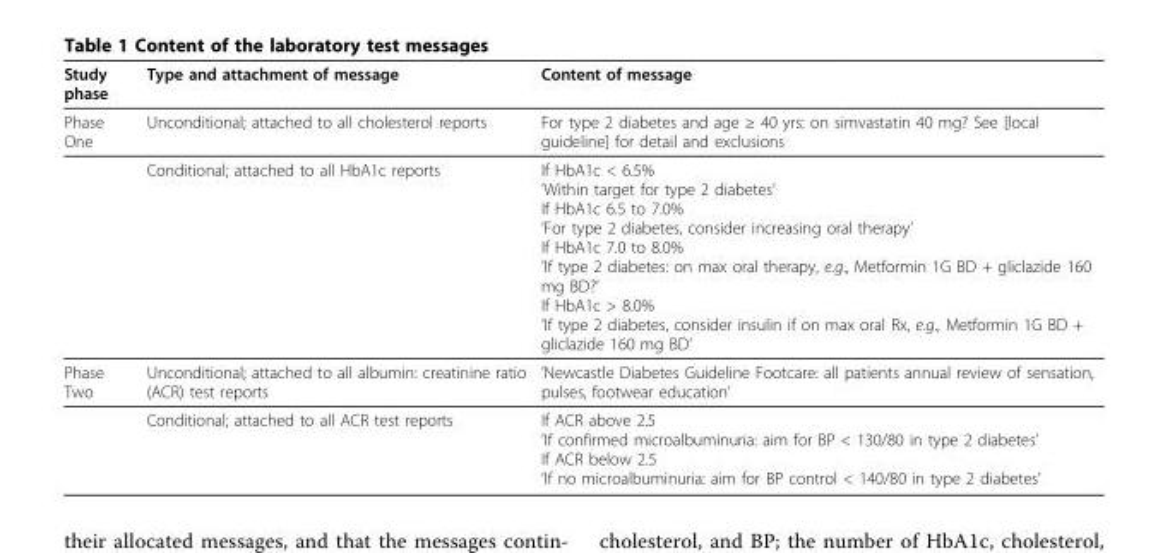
<table><thead><tr><td>Study phase</td><td>Type and attachment of message</td><td>Content of message</td></tr></thead><tbody><tr><td rowspan="2">Phase One</td><td>Unconditional; attached to all cholesterol reports</td><td>For type 2 diabetes and age ≥ 40 yrs: on simvastatin 40 mg? See [local guideline] for detail and exclusions</td></tr><tr><td>Conditional; attached to all HbA1c reports</td><td>If HbA1c &lt; 6.5% ’Within target for type 2 diabetes’ If HbA1c 6.5 to 7.0% ’For type 2 diabetes, consider increasing oral therapy’ If HbA1c 7.0 to 8.0% ’If type 2 diabetes: on max oral therapy, e.g., Metformin 1G BD + gliclazide 160 mg BD?’ If HbA1c &gt; 8.0% ’If type 2 diabetes, consider insulin if on max oral Rx, e.g., Metformin 1G BD + gliclazide 160 mg BD’</td></tr><tr><td rowspan="2">Phase Two</td><td>Unconditional; attached to all albumin: creatinine ratio (ACR) test reports</td><td>’Newcastle Diabetes Guideline Footcare: all patients annual review of sensation, pulses, footwear education’</td></tr><tr><td>Conditional; attached to all ACR test reports</td><td>If ACR above 2.5 ’If confirmed microalbuminuria: aim for BP &lt; 130/80 in type 2 diabetes’ If ACR below 2.5 ’If no microalbuminuria: aim for BP control &lt; 140/80 in type 2 diabetes’</td></tr></tbody></table>